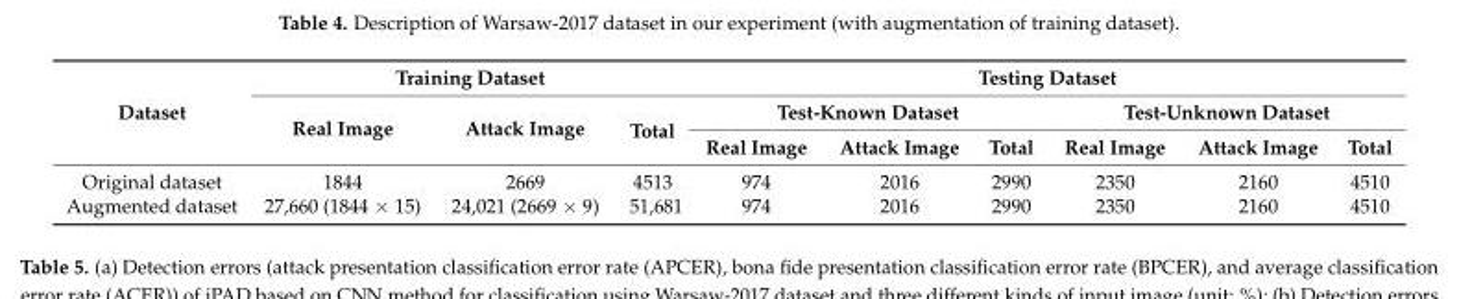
<table><thead><tr><td rowspan="3">Dataset</td><td colspan="3">Training Dataset</td><td colspan="6">Testing Dataset</td></tr><tr><td rowspan="2">Real Image</td><td rowspan="2">Attack Image</td><td rowspan="2">Total</td><td colspan="3">Test-Known Dataset</td><td colspan="3">Test-Unknown Dataset</td></tr><tr><td>Real Image</td><td>Attack Image</td><td>Total</td><td>Real Image</td><td>Attack Image</td><td>Total</td></tr></thead><tbody><tr><td>Original dataset</td><td>1844</td><td>2669</td><td>4513</td><td>974</td><td>2016</td><td>2990</td><td>2350</td><td>2160</td><td>4510</td></tr><tr><td>Augmented dataset</td><td>27,660 (1844 × 15)</td><td>24,021 (2669 × 9)</td><td>51,681</td><td>974</td><td>2016</td><td>2990</td><td>2350</td><td>2160</td><td>4510</td></tr></tbody></table>